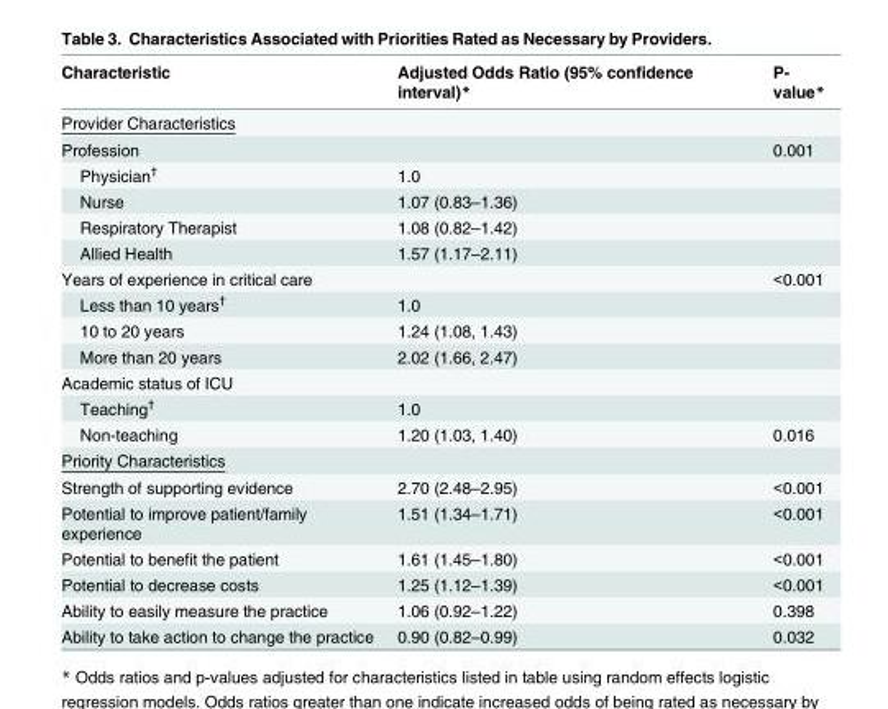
<table><thead><tr><td>Characteristic</td><td>Adjusted Odds Ratio (95% confidence interval)*</td><td>P- value*</td></tr></thead><tbody><tr><td colspan="3">Provider Characteristics</td></tr><tr><td>Profession</td><td></td><td>0.001</td></tr><tr><td>Physician<sup>†</sup></td><td>1.0</td><td></td></tr><tr><td>Nurse</td><td>1.07 (0.83–1.36)</td><td></td></tr><tr><td>Respiratory Therapist</td><td>1.08 (0.82–1.42)</td><td></td></tr><tr><td>Allied Health</td><td>1.57 (1.17–2.11)</td><td></td></tr><tr><td>Years of experience in critical care</td><td></td><td>&lt;0.001</td></tr><tr><td>Less than 10 years<sup>†</sup></td><td>1.0</td><td></td></tr><tr><td>10 to 20 years</td><td>1.24 (1.08, 1.43)</td><td></td></tr><tr><td>More than 20 years</td><td>2.02 (1.66, 2.47)</td><td></td></tr><tr><td colspan="3">Academic status of ICU</td></tr><tr><td>Teaching<sup>†</sup></td><td>1.0</td><td></td></tr><tr><td>Non-teaching</td><td>1.20 (1.03, 1.40)</td><td>0.016</td></tr><tr><td colspan="3">Priority Characteristics</td></tr><tr><td>Strength of supporting evidence</td><td>2.70 (2.48–2.95)</td><td>&lt;0.001</td></tr><tr><td>Potential to improve patient/family experience</td><td>1.51 (1.34–1.71)</td><td>&lt;0.001</td></tr><tr><td>Potential to benefit the patient</td><td>1.61 (1.45–1.80)</td><td>&lt;0.001</td></tr><tr><td>Potential to decrease costs</td><td>1.25 (1.12–1.39)</td><td>&lt;0.001</td></tr><tr><td>Ability to easily measure the practice</td><td>1.06 (0.92–1.22)</td><td>0.398</td></tr><tr><td>Ability to take action to change the practice</td><td>0.90 (0.82–0.99)</td><td>0.032</td></tr></tbody></table>